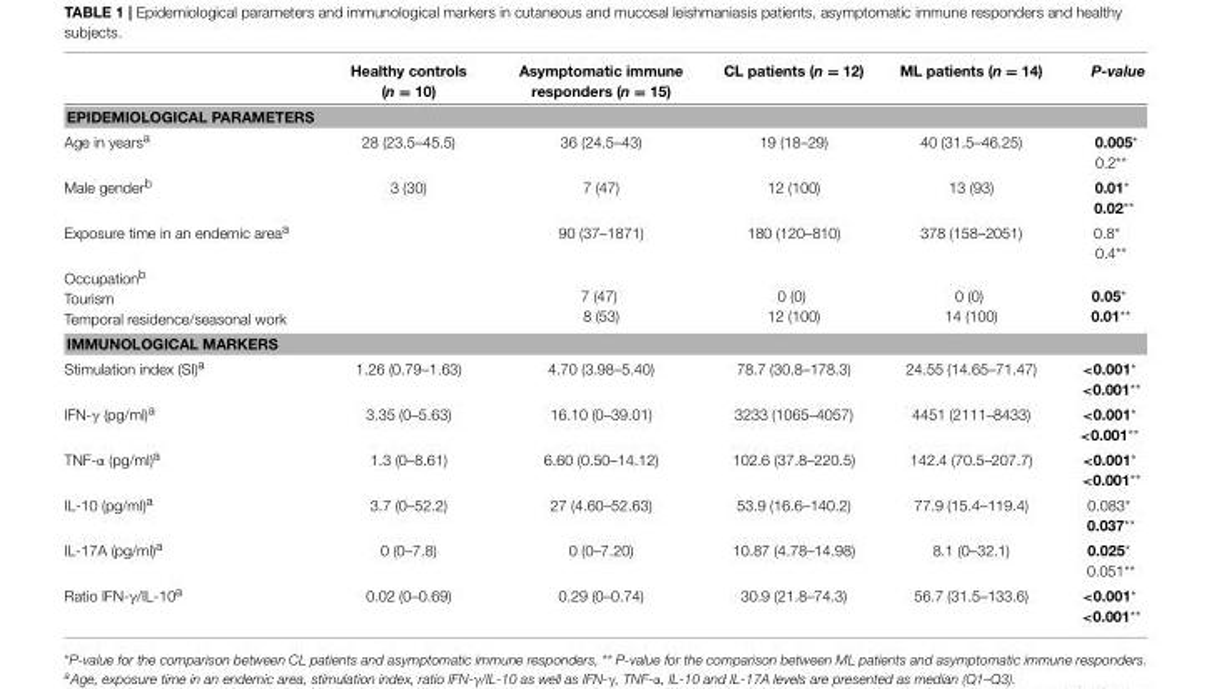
<table><thead><tr><td></td><td>Healthy controls (n = 10)</td><td>Asymptomatic immune responders (n = 15)</td><td>CL patients (n = 12)</td><td>ML patients (n = 14)</td><td>P-value</td></tr></thead><tbody><tr><td colspan="6">EPIDEMIOLOGICAL PARAMETERS</td></tr><tr><td>Age in years<sup>a</sup></td><td>28 (23.5–45.5)</td><td>36 (24.5–43)</td><td>19 (18–29)</td><td>40 (31.5–46.25)</td><td>0.005* 0.2**</td></tr><tr><td>Male gender<sup>b</sup></td><td>3 (30)</td><td>7 (47)</td><td>12 (100)</td><td>13 (93)</td><td>0.01* 0.02**</td></tr><tr><td>Exposure time in an endemic area<sup>a</sup></td><td></td><td>90 (37–1871)</td><td>180 (120–810)</td><td>378 (158–2051)</td><td>0.8* 0.4**</td></tr><tr><td>Occupation<sup>b</sup> Tourism Temporal residence/seasonal work</td><td></td><td>7 (47) 8 (53)</td><td>0 (0) 12 (100)</td><td>0 (0) 14 (100)</td><td>0.05* 0.01**</td></tr><tr><td colspan="6">IMMUNOLOGICAL MARKERS</td></tr><tr><td>Stimulation index (SI)<sup>a</sup></td><td>1.26 (0.79–1.63)</td><td>4.70 (3.98–5.40)</td><td>78.7 (30.8–178.3)</td><td>24.55 (14.65–71.47)</td><td>&lt;0.001* &lt;0.001**</td></tr><tr><td>IFN-γ (pg/ml)<sup>a</sup></td><td>3.35 (0–5.63)</td><td>16.10 (0–39.01)</td><td>3233 (1065–4057)</td><td>4451 (2111–8433)</td><td>&lt;0.001* &lt;0.001**</td></tr><tr><td>TNF-α (pg/ml)<sup>a</sup></td><td>1.3 (0–8.61)</td><td>6.60 (0.50–14.12)</td><td>102.6 (37.8–220.5)</td><td>142.4 (70.5–207.7)</td><td>&lt;0.001* &lt;0.001**</td></tr><tr><td>IL-10 (pg/ml)<sup>a</sup></td><td>3.7 (0–52.2)</td><td>27 (4.60–52.63)</td><td>53.9 (16.6–140.2)</td><td>77.9 (15.4–119.4)</td><td>0.083* 0.037**</td></tr><tr><td>IL-17A (pg/ml)<sup>a</sup></td><td>0 (0–7.8)</td><td>0 (0–7.20)</td><td>10.87 (4.78–14.98)</td><td>8.1 (0–32.1)</td><td>0.025* 0.051**</td></tr><tr><td>Ratio IFN-γ/IL-10<sup>a</sup></td><td>0.02 (0–0.69)</td><td>0.29 (0–0.74)</td><td>30.9 (21.8–74.3)</td><td>56.7 (31.5–133.6)</td><td>&lt;0.001* &lt;0.001**</td></tr></tbody></table>